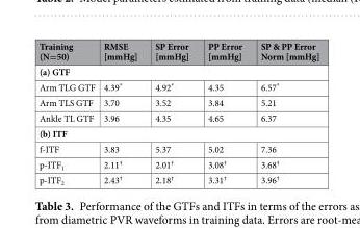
<table><thead><tr><td>Training (N=50)</td><td>RMSE [mmHg]</td><td>SP Error [mmHg]</td><td>PP Error [mmHg]</td><td>SP &amp; PP Error Norm [mmHg]</td></tr></thead><tbody><tr><td colspan="5">(a) GTF</td></tr><tr><td>Arm TLG GTF</td><td>4.39*</td><td>4.92*</td><td>4.35</td><td>6.57*</td></tr><tr><td>Arm TLS GTF</td><td>3.70</td><td>3.52</td><td>3.84</td><td>5.21</td></tr><tr><td>Ankle TL GTF</td><td>3.96</td><td>4.35</td><td>4.65</td><td>6.37</td></tr><tr><td colspan="5">(b) ITF</td></tr><tr><td>f-ITF</td><td>3.83</td><td>5.37</td><td>5.02</td><td>7.36</td></tr><tr><td>p-ITF<sub>1</sub></td><td>2.11<sup>†</sup></td><td>2.01<sup>†</sup></td><td>3.08<sup>†</sup></td><td>3.68<sup>†</sup></td></tr><tr><td>p-ITF<sub>2</sub></td><td>2.43<sup>†</sup></td><td>2.18<sup>†</sup></td><td>3.31<sup>†</sup></td><td>3.96<sup>†</sup></td></tr></tbody></table>